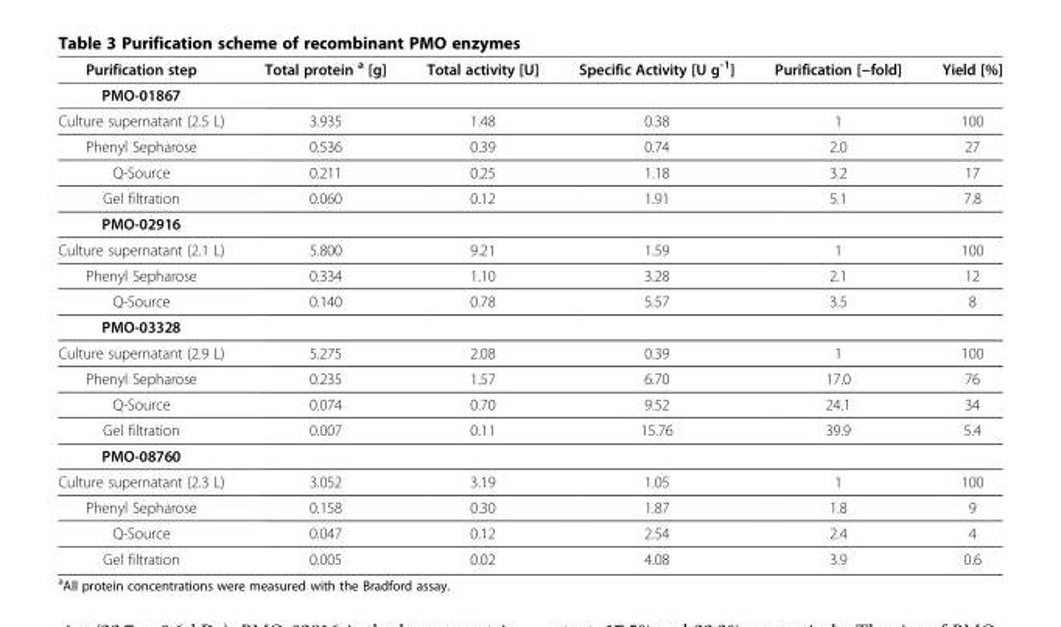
<table><thead><tr><td>Purification step</td><td>Total protein <sup>a</sup> [g]</td><td>Total activity [U]</td><td>Specific Activity [U g<sup>-1</sup>]</td><td>Purification [−fold]</td><td>Yield [%]</td></tr></thead><tbody><tr><td colspan="6">PMO-01867</td></tr><tr><td>Culture supernatant (2.5 L)</td><td>3.935</td><td>1.48</td><td>0.38</td><td>1</td><td>100</td></tr><tr><td>Phenyl Sepharose</td><td>0.536</td><td>0.39</td><td>0.74</td><td>2.0</td><td>27</td></tr><tr><td>Q-Source</td><td>0.211</td><td>0.25</td><td>1.18</td><td>3.2</td><td>17</td></tr><tr><td>Gel filtration</td><td>0.060</td><td>0.12</td><td>1.91</td><td>5.1</td><td>7.8</td></tr><tr><td colspan="6">PMO-02916</td></tr><tr><td>Culture supernatant (2.1 L)</td><td>5.800</td><td>9.21</td><td>1.59</td><td>1</td><td>100</td></tr><tr><td>Phenyl Sepharose</td><td>0.334</td><td>1.10</td><td>3.28</td><td>2.1</td><td>12</td></tr><tr><td>Q-Source</td><td>0.140</td><td>0.78</td><td>5.57</td><td>3.5</td><td>8</td></tr><tr><td colspan="6">PMO-03328</td></tr><tr><td>Culture supernatant (2.9 L)</td><td>5.275</td><td>2.08</td><td>0.39</td><td>1</td><td>100</td></tr><tr><td>Phenyl Sepharose</td><td>0.235</td><td>1.57</td><td>6.70</td><td>17.0</td><td>76</td></tr><tr><td>Q-Source</td><td>0.074</td><td>0.70</td><td>9.52</td><td>24.1</td><td>34</td></tr><tr><td>Gel filtration</td><td>0.007</td><td>0.11</td><td>15.76</td><td>39.9</td><td>5.4</td></tr><tr><td colspan="6">PMO-08760</td></tr><tr><td>Culture supernatant (2.3 L)</td><td>3.052</td><td>3.19</td><td>1.05</td><td>1</td><td>100</td></tr><tr><td>Phenyl Sepharose</td><td>0.158</td><td>0.30</td><td>1.87</td><td>1.8</td><td>9</td></tr><tr><td>Q-Source</td><td>0.047</td><td>0.12</td><td>2.54</td><td>2.4</td><td>4</td></tr><tr><td>Gel filtration</td><td>0.005</td><td>0.02</td><td>4.08</td><td>3.9</td><td>0.6</td></tr></tbody></table>